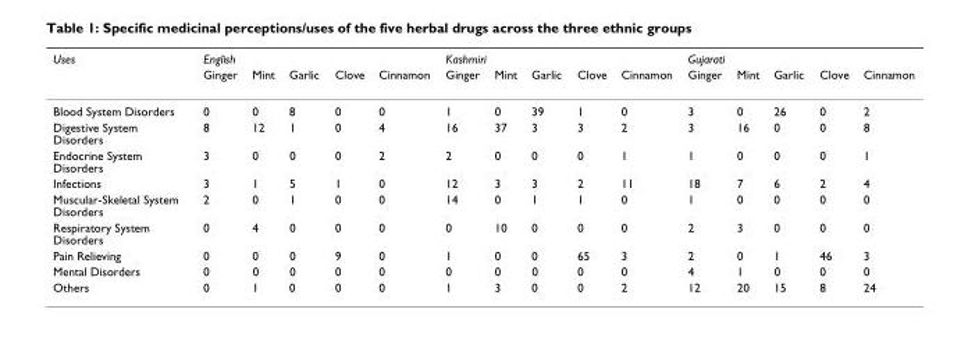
<table><thead><tr><td rowspan="2">Uses</td><td colspan="5">English</td><td colspan="5">Kashmiri</td><td colspan="5">Gujarati</td></tr><tr><td>Ginger</td><td>Mint</td><td>Garlic</td><td>Clove</td><td>Cinnamon</td><td>Ginger</td><td>Mint</td><td>Garlic</td><td>Clove</td><td>Cinnamon</td><td>Ginger</td><td>Mint</td><td>Garlic</td><td>Clove</td><td>Cinnamon</td></tr></thead><tbody><tr><td>Blood System Disorders</td><td>0</td><td>0</td><td>8</td><td>0</td><td>0</td><td>1</td><td>0</td><td>39</td><td>1</td><td>0</td><td>3</td><td>0</td><td>26</td><td>0</td><td>2</td></tr><tr><td>Digestive System Disorders</td><td>8</td><td>12</td><td>1</td><td>0</td><td>4</td><td>16</td><td>37</td><td>3</td><td>3</td><td>2</td><td>3</td><td>16</td><td>0</td><td>0</td><td>8</td></tr><tr><td>Endocrine System Disorders</td><td>3</td><td>0</td><td>0</td><td>0</td><td>2</td><td>2</td><td>0</td><td>0</td><td>0</td><td>1</td><td>1</td><td>0</td><td>0</td><td>0</td><td>1</td></tr><tr><td>Infections</td><td>3</td><td>1</td><td>5</td><td>1</td><td>0</td><td>12</td><td>3</td><td>3</td><td>2</td><td>11</td><td>18</td><td>7</td><td>6</td><td>2</td><td>4</td></tr><tr><td>Muscular-Skeletal System Disorders</td><td>2</td><td>0</td><td>1</td><td>0</td><td>0</td><td>14</td><td>0</td><td>1</td><td>1</td><td>0</td><td>1</td><td>0</td><td>0</td><td>0</td><td>0</td></tr><tr><td>Respiratory System Disorders</td><td>0</td><td>4</td><td>0</td><td>0</td><td>0</td><td>0</td><td>10</td><td>0</td><td>0</td><td>0</td><td>2</td><td>3</td><td>0</td><td>0</td><td>0</td></tr><tr><td>Pain Relieving</td><td>0</td><td>0</td><td>0</td><td>9</td><td>0</td><td>1</td><td>0</td><td>0</td><td>65</td><td>3</td><td>2</td><td>0</td><td>1</td><td>46</td><td>3</td></tr><tr><td>Mental Disorders</td><td>0</td><td>0</td><td>0</td><td>0</td><td>0</td><td>0</td><td>0</td><td>0</td><td>0</td><td>0</td><td>4</td><td>1</td><td>0</td><td>0</td><td>0</td></tr><tr><td>Others</td><td>0</td><td>1</td><td>0</td><td>0</td><td>0</td><td>1</td><td>3</td><td>0</td><td>0</td><td>2</td><td>12</td><td>20</td><td>15</td><td>8</td><td>24</td></tr></tbody></table>